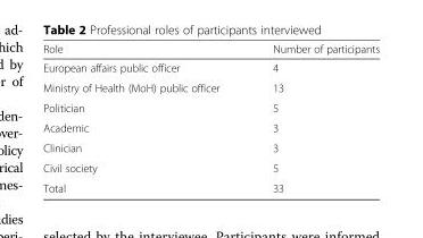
<table><thead><tr><td>Role</td><td>Number of participants</td></tr></thead><tbody><tr><td>European affairs public officer</td><td>4</td></tr><tr><td>Ministry of Health (MoH) public officer</td><td>13</td></tr><tr><td>Politician</td><td>5</td></tr><tr><td>Academic</td><td>3</td></tr><tr><td>Clinician</td><td>3</td></tr><tr><td>Civil society</td><td>5</td></tr><tr><td>Total</td><td>33</td></tr></tbody></table>